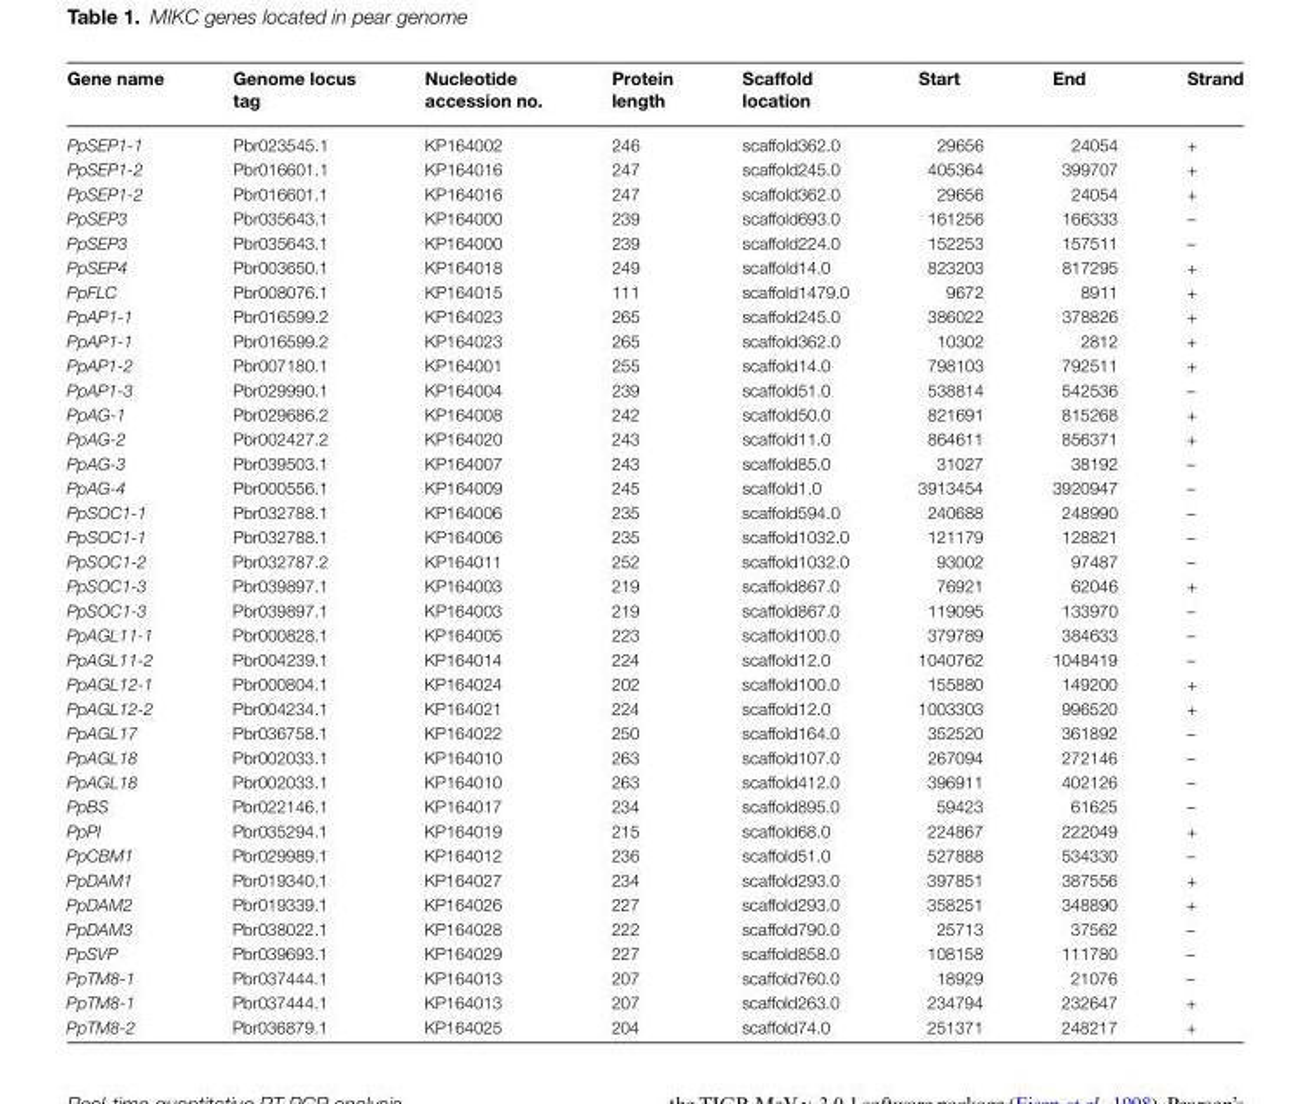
<table><thead><tr><td>Gene name</td><td>Genome locus tag</td><td>Nucleotide accession no.</td><td>Protein length</td><td>Scaffold location</td><td>Start</td><td>End</td><td>Strand</td></tr></thead><tbody><tr><td>PpSEP1-1</td><td>Pbr023545.1</td><td>KP164002</td><td>246</td><td>scaffold362.0</td><td>29656</td><td>24054</td><td>+</td></tr><tr><td>PpSEP1-2</td><td>Pbr016601.1</td><td>KP164016</td><td>247</td><td>scaffold245.0</td><td>405364</td><td>399707</td><td>+</td></tr><tr><td>PpSEP1-2</td><td>Pbr016601.1</td><td>KP164016</td><td>247</td><td>scaffold362.0</td><td>29656</td><td>24054</td><td>+</td></tr><tr><td>PpSEP3</td><td>Pbr035643.1</td><td>KP164000</td><td>239</td><td>scaffold693.0</td><td>161256</td><td>166333</td><td>–</td></tr><tr><td>PpSEP3</td><td>Pbr035643.1</td><td>KP164000</td><td>239</td><td>scaffold224.0</td><td>152253</td><td>157511</td><td>–</td></tr><tr><td>PpSEP4</td><td>Pbr003650.1</td><td>KP164018</td><td>249</td><td>scaffold14.0</td><td>823203</td><td>817295</td><td>+</td></tr><tr><td>PpFLC</td><td>Pbr008076.1</td><td>KP164015</td><td>111</td><td>scaffold1479.0</td><td>9672</td><td>8911</td><td>+</td></tr><tr><td>PpAP1-1</td><td>Pbr016599.2</td><td>KP164023</td><td>265</td><td>scaffold245.0</td><td>386022</td><td>378826</td><td>+</td></tr><tr><td>PpAP1-1</td><td>Pbr016599.2</td><td>KP164023</td><td>265</td><td>scaffold362.0</td><td>10302</td><td>2812</td><td>+</td></tr><tr><td>PpAP1-2</td><td>Pbr007180.1</td><td>KP164001</td><td>255</td><td>scaffold14.0</td><td>798103</td><td>792511</td><td>+</td></tr><tr><td>PpAP1-3</td><td>Pbr029990.1</td><td>KP164004</td><td>239</td><td>scaffold51.0</td><td>538814</td><td>542536</td><td>–</td></tr><tr><td>PpAG-1</td><td>Pbr029686.2</td><td>KP164008</td><td>242</td><td>scaffold50.0</td><td>821691</td><td>815268</td><td>+</td></tr><tr><td>PpAG-2</td><td>Pbr002427.2</td><td>KP164020</td><td>243</td><td>scaffold11.0</td><td>864611</td><td>856371</td><td>+</td></tr><tr><td>PpAG-3</td><td>Pbr039503.1</td><td>KP164007</td><td>243</td><td>scaffold85.0</td><td>31027</td><td>38192</td><td>–</td></tr><tr><td>PpAG-4</td><td>Pbr000556.1</td><td>KP164009</td><td>245</td><td>scaffold1.0</td><td>3913454</td><td>3920947</td><td>–</td></tr><tr><td>PpSOC1-1</td><td>Pbr032788.1</td><td>KP164006</td><td>235</td><td>scaffold594.0</td><td>240688</td><td>248990</td><td>–</td></tr><tr><td>PpSOC1-1</td><td>Pbr032788.1</td><td>KP164006</td><td>235</td><td>scaffold1032.0</td><td>121179</td><td>128821</td><td>–</td></tr><tr><td>PpSOC1-2</td><td>Pbr032787.2</td><td>KP164011</td><td>252</td><td>scaffold1032.0</td><td>93002</td><td>97487</td><td>–</td></tr><tr><td>PpSOC1-3</td><td>Pbr039897.1</td><td>KP164003</td><td>219</td><td>scaffold867.0</td><td>76921</td><td>62046</td><td>+</td></tr><tr><td>PpSOC1-3</td><td>Pbr039897.1</td><td>KP164003</td><td>219</td><td>scaffold867.0</td><td>119095</td><td>133970</td><td>–</td></tr><tr><td>PpAGL11-1</td><td>Pbr000828.1</td><td>KP164005</td><td>223</td><td>scaffold100.0</td><td>379789</td><td>384633</td><td>–</td></tr><tr><td>PpAGL11-2</td><td>Pbr004239.1</td><td>KP164014</td><td>224</td><td>scaffold12.0</td><td>1040762</td><td>1048419</td><td>–</td></tr><tr><td>PpAGL12-1</td><td>Pbr000804.1</td><td>KP164024</td><td>202</td><td>scaffold100.0</td><td>155880</td><td>149200</td><td>+</td></tr><tr><td>PpAGL12-2</td><td>Pbr004234.1</td><td>KP164021</td><td>224</td><td>scaffold12.0</td><td>1003303</td><td>996520</td><td>+</td></tr><tr><td>PpAGL17</td><td>Pbr036758.1</td><td>KP164022</td><td>250</td><td>scaffold164.0</td><td>352520</td><td>361892</td><td>–</td></tr><tr><td>PpAGL18</td><td>Pbr002033.1</td><td>KP164010</td><td>263</td><td>scaffold107.0</td><td>267094</td><td>272146</td><td>–</td></tr><tr><td>PpAGL18</td><td>Pbr002033.1</td><td>KP164010</td><td>263</td><td>scaffold412.0</td><td>396911</td><td>402126</td><td>–</td></tr><tr><td>PpBS</td><td>Pbr022146.1</td><td>KP164017</td><td>234</td><td>scaffold895.0</td><td>59423</td><td>61625</td><td>–</td></tr><tr><td>PpPI</td><td>Pbr035294.1</td><td>KP164019</td><td>215</td><td>scaffold68.0</td><td>224867</td><td>222049</td><td>+</td></tr><tr><td>PpCBM1</td><td>Pbr029989.1</td><td>KP164012</td><td>236</td><td>scaffold51.0</td><td>527888</td><td>534330</td><td>–</td></tr><tr><td>PpDAM1</td><td>Pbr019340.1</td><td>KP164027</td><td>234</td><td>scaffold293.0</td><td>397851</td><td>387556</td><td>+</td></tr><tr><td>PpDAM2</td><td>Pbr019339.1</td><td>KP164026</td><td>227</td><td>scaffold293.0</td><td>358251</td><td>348890</td><td>+</td></tr><tr><td>PpDAM3</td><td>Pbr038022.1</td><td>KP164028</td><td>222</td><td>scaffold790.0</td><td>25713</td><td>37562</td><td>–</td></tr><tr><td>PpSVP</td><td>Pbr039693.1</td><td>KP164029</td><td>227</td><td>scaffold858.0</td><td>108158</td><td>111780</td><td>–</td></tr><tr><td>PpTM8-1</td><td>Pbr037444.1</td><td>KP164013</td><td>207</td><td>scaffold760.0</td><td>18929</td><td>21076</td><td>–</td></tr><tr><td>PpTM8-1</td><td>Pbr037444.1</td><td>KP164013</td><td>207</td><td>scaffold263.0</td><td>234794</td><td>232647</td><td>+</td></tr><tr><td>PpTM8-2</td><td>Pbr036879.1</td><td>KP164025</td><td>204</td><td>scaffold74.0</td><td>251371</td><td>248217</td><td>+</td></tr></tbody></table>